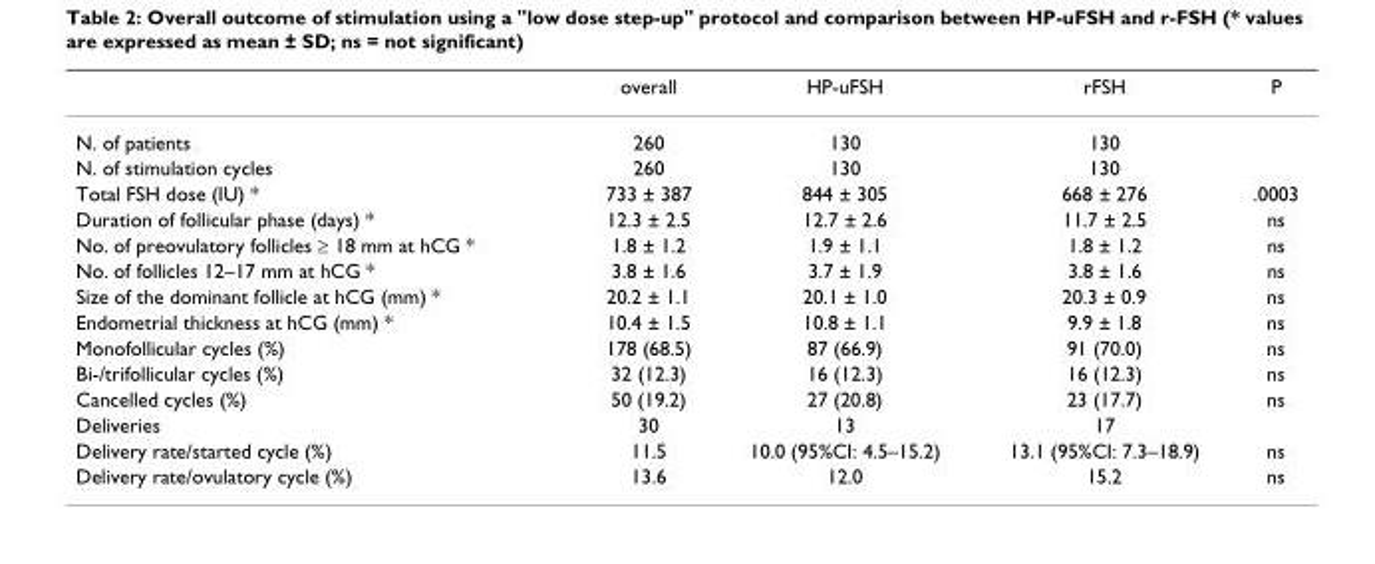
<table><thead><tr><td></td><td>overall</td><td>HP-uFSH</td><td>rFSH</td><td>P</td></tr></thead><tbody><tr><td>N. of patients</td><td>260</td><td>130</td><td>130</td><td></td></tr><tr><td>N. of stimulation cycles</td><td>260</td><td>130</td><td>130</td><td></td></tr><tr><td>Total FSH dose (IU) *</td><td>733 ± 387</td><td>844 ± 305</td><td>668 ± 276</td><td>.0003</td></tr><tr><td>Duration of follicular phase (days) *</td><td>12.3 ± 2.5</td><td>12.7 ± 2.6</td><td>11.7 ± 2.5</td><td>ns</td></tr><tr><td>No. of preovulatory follicles ≥ 18 mm at hCG *</td><td>1.8 ± 1.2</td><td>1.9 ± 1.1</td><td>1.8 ± 1.2</td><td>ns</td></tr><tr><td>No. of follicles 12–17 mm at hCG *</td><td>3.8 ± 1.6</td><td>3.7 ± 1.9</td><td>3.8 ± 1.6</td><td>ns</td></tr><tr><td>Size of the dominant follicle at hCG (mm) *</td><td>20.2 ± 1.1</td><td>20.1 ± 1.0</td><td>20.3 ± 0.9</td><td>ns</td></tr><tr><td>Endometrial thickness at hCG (mm) *</td><td>10.4 ± 1.5</td><td>10.8 ± 1.1</td><td>9.9 ± 1.8</td><td>ns</td></tr><tr><td>Monofollicular cycles (%)</td><td>178 (68.5)</td><td>87 (66.9)</td><td>91 (70.0)</td><td>ns</td></tr><tr><td>Bi-/trifollicular cycles (%)</td><td>32 (12.3)</td><td>16 (12.3)</td><td>16 (12.3)</td><td>ns</td></tr><tr><td>Cancelled cycles (%)</td><td>50 (19.2)</td><td>27 (20.8)</td><td>23 (17.7)</td><td>ns</td></tr><tr><td>Deliveries</td><td>30</td><td>13</td><td>17</td><td></td></tr><tr><td>Delivery rate/started cycle (%)</td><td>11.5</td><td>10.0 (95%CI: 4.5–15.2)</td><td>13.1 (95%CI: 7.3–18.9)</td><td>ns</td></tr><tr><td>Delivery rate/ovulatory cycle (%)</td><td>13.6</td><td>12.0</td><td>15.2</td><td>ns</td></tr></tbody></table>